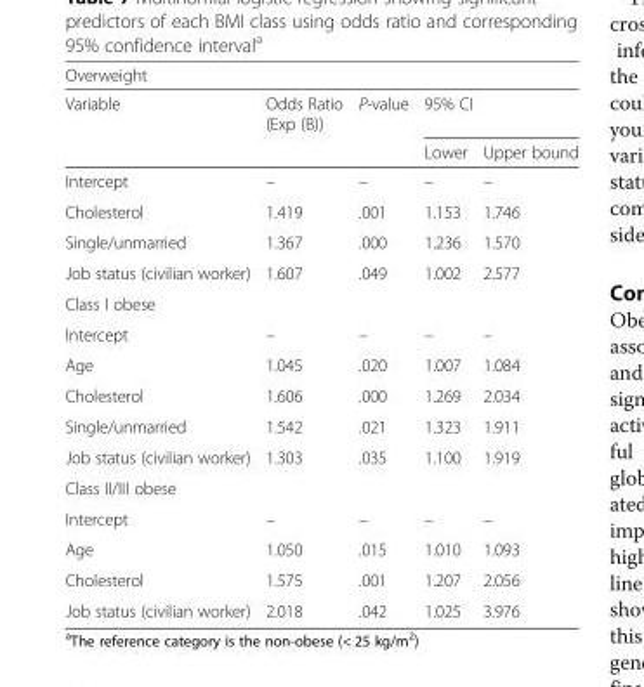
<table><thead><tr><td colspan="5">Overweight</td></tr><tr><td rowspan="2">Variable</td><td rowspan="2">Odds Ratio (Exp (B))</td><td rowspan="2">P-value</td><td colspan="2">95% CI</td></tr><tr><td>Lower</td><td>Upper bound</td></tr></thead><tbody><tr><td>Intercept</td><td>–</td><td>–</td><td>–</td><td>–</td></tr><tr><td>Cholesterol</td><td>1.419</td><td>.001</td><td>1.153</td><td>1.746</td></tr><tr><td>Single/unmarried</td><td>1.367</td><td>.000</td><td>1.236</td><td>1.570</td></tr><tr><td>Job status (civilian worker)</td><td>1.607</td><td>.049</td><td>1.002</td><td>2.577</td></tr><tr><td colspan="5">Class I obese</td></tr><tr><td>Intercept</td><td>–</td><td>–</td><td>–</td><td>–</td></tr><tr><td>Age</td><td>1.045</td><td>.020</td><td>1.007</td><td>1.084</td></tr><tr><td>Cholesterol</td><td>1.606</td><td>.000</td><td>1.269</td><td>2.034</td></tr><tr><td>Single/unmarried</td><td>1.542</td><td>.021</td><td>1.323</td><td>1.911</td></tr><tr><td>Job status (civilian worker)</td><td>1.303</td><td>.035</td><td>1.100</td><td>1.919</td></tr><tr><td colspan="5">Class II/III obese</td></tr><tr><td>Intercept</td><td>–</td><td>–</td><td>–</td><td>–</td></tr><tr><td>Age</td><td>1.050</td><td>.015</td><td>1.010</td><td>1.093</td></tr><tr><td>Cholesterol</td><td>1.575</td><td>.001</td><td>1.207</td><td>2.056</td></tr><tr><td>Job status (civilian worker)</td><td>2.018</td><td>.042</td><td>1.025</td><td>3.976</td></tr></tbody></table>